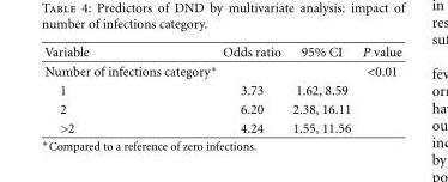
<table><thead><tr><td>Variable</td><td>Odds ratio</td><td>95% CI</td><td>P value</td></tr></thead><tbody><tr><td>Number of infections category∗</td><td></td><td></td><td>&lt;0.01</td></tr><tr><td>1</td><td>3.73</td><td>1.62, 8.59</td><td></td></tr><tr><td>2</td><td>6.20</td><td>2.38, 16.11</td><td></td></tr><tr><td>&gt;2</td><td>4.24</td><td>1.55, 11.56</td><td></td></tr></tbody></table>